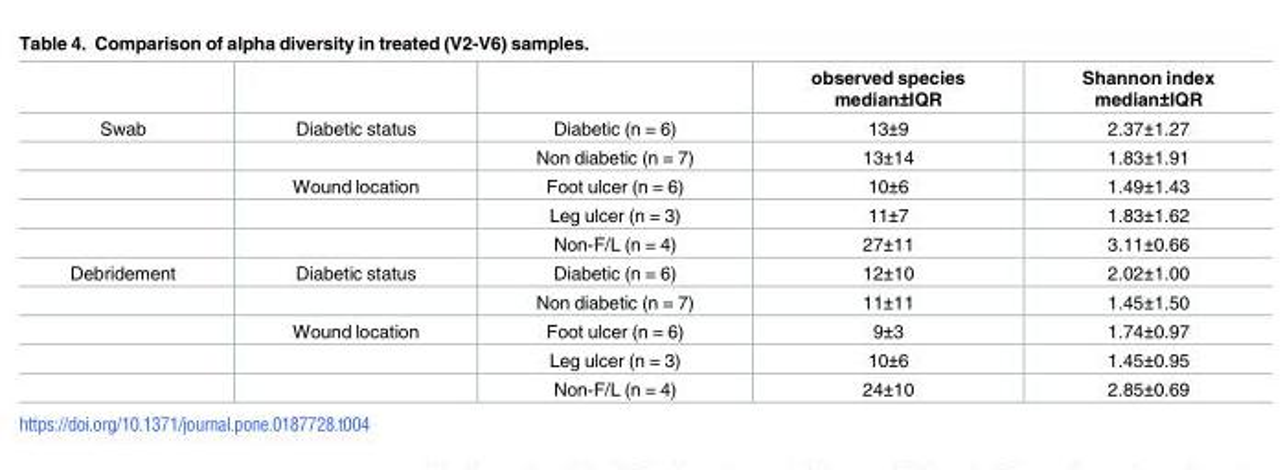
<table><thead><tr><td></td><td></td><td></td><td>observed species median±IQR</td><td>Shannon index median±IQR</td></tr></thead><tbody><tr><td rowspan="5">Swab</td><td>Diabetic status</td><td>Diabetic (n = 6)</td><td>13±9</td><td>2.37±1.27</td></tr><tr><td></td><td>Non diabetic (n = 7)</td><td>13±14</td><td>1.83±1.91</td></tr><tr><td>Wound location</td><td>Foot ulcer (n = 6)</td><td>10±6</td><td>1.49±1.43</td></tr><tr><td></td><td>Leg ulcer (n = 3)</td><td>11±7</td><td>1.83±1.62</td></tr><tr><td></td><td>Non-F/L (n = 4)</td><td>27±11</td><td>3.11±0.66</td></tr><tr><td rowspan="5">Debridement</td><td>Diabetic status</td><td>Diabetic (n = 6)</td><td>12±10</td><td>2.02±1.00</td></tr><tr><td></td><td>Non diabetic (n = 7)</td><td>11±11</td><td>1.45±1.50</td></tr><tr><td>Wound location</td><td>Foot ulcer (n = 6)</td><td>9±3</td><td>1.74±0.97</td></tr><tr><td></td><td>Leg ulcer (n = 3)</td><td>10±6</td><td>1.45±0.95</td></tr><tr><td></td><td>Non-F/L (n = 4)</td><td>24±10</td><td>2.85±0.69</td></tr></tbody></table>